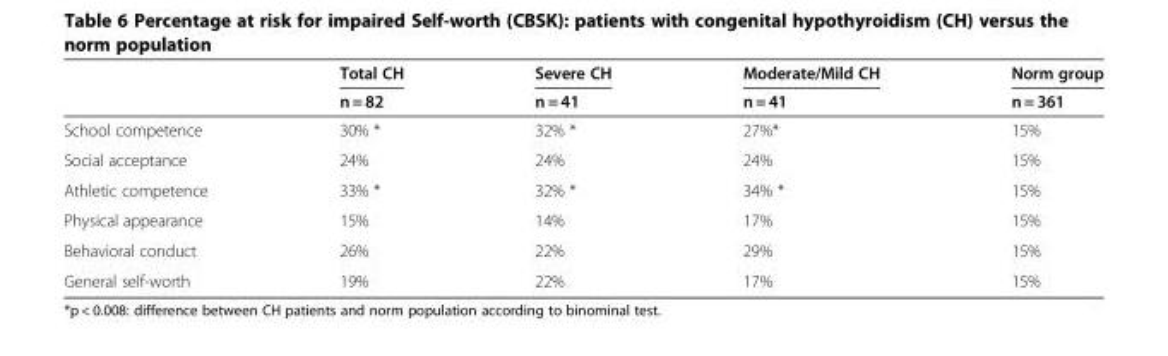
<table><thead><tr><td rowspan="2"></td><td rowspan="2">Total CH n = 82</td><td rowspan="2">Severe CH n = 41</td><td rowspan="2">Moderate/Mild CH n = 41</td><td rowspan="2">Norm group n = 361</td></tr><tr></tr></thead><tbody><tr><td>School competence</td><td>30% *</td><td>32% *</td><td>27%*</td><td>15%</td></tr><tr><td>Social acceptance</td><td>24%</td><td>24%</td><td>24%</td><td>15%</td></tr><tr><td>Athletic competence</td><td>33% *</td><td>32% *</td><td>34% *</td><td>15%</td></tr><tr><td>Physical appearance</td><td>15%</td><td>14%</td><td>17%</td><td>15%</td></tr><tr><td>Behavioral conduct</td><td>26%</td><td>22%</td><td>29%</td><td>15%</td></tr><tr><td>General self-worth</td><td>19%</td><td>22%</td><td>17%</td><td>15%</td></tr></tbody></table>